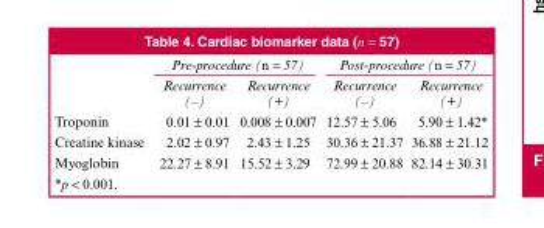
<table><thead><tr><td rowspan="2"></td><td colspan="2">Pre-procedure (n = 57)</td><td colspan="2">Post-procedure (n = 57)</td></tr><tr><td>Recurrence (–)</td><td>Recurrence (+)</td><td>Recurrence (–)</td><td>Recurrence (+)</td></tr></thead><tbody><tr><td>Troponin</td><td>0.01 ± 0.01</td><td>0.008 ± 0.007</td><td>12.57 ± 5.06</td><td>5.90 ± 1.42*</td></tr><tr><td>Creatine kinase</td><td>2.02 ± 0.97</td><td>2.43 ± 1.25</td><td>30.36 ± 21.37</td><td>36.88 ± 21.12</td></tr><tr><td>Myoglobin</td><td>22.27 ± 8.91</td><td>15.52 ± 3.29</td><td>72.99 ± 20.88</td><td>82.14 ± 30.31</td></tr></tbody></table>